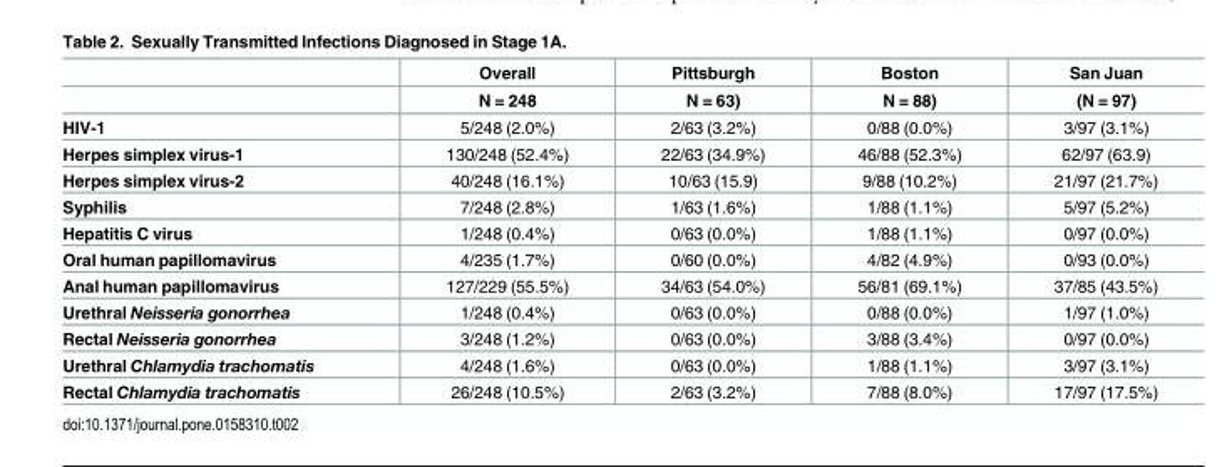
<table><thead><tr><td rowspan="2"></td><td rowspan="2">Overall N = 248</td><td rowspan="2">Pittsburgh N = 63)</td><td rowspan="2">Boston N = 88)</td><td rowspan="2">San Juan (N = 97)</td></tr><tr></tr></thead><tbody><tr><td>HIV-1</td><td>5/248 (2.0%)</td><td>2/63 (3.2%)</td><td>0/88 (0.0%)</td><td>3/97 (3.1%)</td></tr><tr><td>Herpes simplex virus-1</td><td>130/248 (52.4%)</td><td>22/63 (34.9%)</td><td>46/88 (52.3%)</td><td>62/97 (63.9)</td></tr><tr><td>Herpes simplex virus-2</td><td>40/248 (16.1%)</td><td>10/63 (15.9)</td><td>9/88 (10.2%)</td><td>21/97 (21.7%)</td></tr><tr><td>Syphilis</td><td>7/248 (2.8%)</td><td>1/63 (1.6%)</td><td>1/88 (1.1%)</td><td>5/97 (5.2%)</td></tr><tr><td>Hepatitis C virus</td><td>1/248 (0.4%)</td><td>0/63 (0.0%)</td><td>1/88 (1.1%)</td><td>0/97 (0.0%)</td></tr><tr><td>Oral human papillomavirus</td><td>4/235 (1.7%)</td><td>0/60 (0.0%)</td><td>4/82 (4.9%)</td><td>0/93 (0.0%)</td></tr><tr><td>Anal human papillomavirus</td><td>127/229 (55.5%)</td><td>34/63 (54.0%)</td><td>56/81 (69.1%)</td><td>37/85 (43.5%)</td></tr><tr><td>Urethral Neisseria gonorrhea</td><td>1/248 (0.4%)</td><td>0/63 (0.0%)</td><td>0/88 (0.0%)</td><td>1/97 (1.0%)</td></tr><tr><td>Rectal Neisseria gonorrhea</td><td>3/248 (1.2%)</td><td>0/63 (0.0%)</td><td>3/88 (3.4%)</td><td>0/97 (0.0%)</td></tr><tr><td>Urethral Chlamydia trachomatis</td><td>4/248 (1.6%)</td><td>0/63 (0.0%)</td><td>1/88 (1.1%)</td><td>3/97 (3.1%)</td></tr><tr><td>Rectal Chlamydia trachomatis</td><td>26/248 (10.5%)</td><td>2/63 (3.2%)</td><td>7/88 (8.0%)</td><td>17/97 (17.5%)</td></tr></tbody></table>